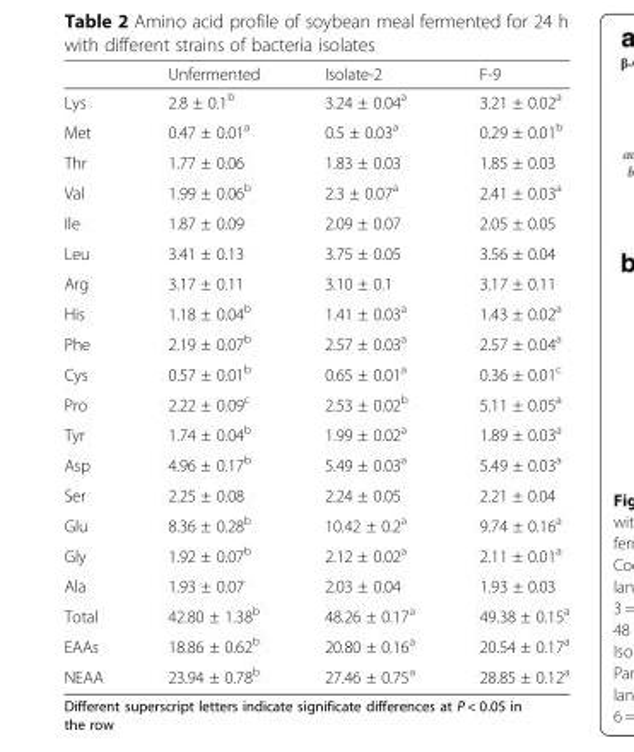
<table><thead><tr><td></td><td>Unfermented</td><td>Isolate-2</td><td>F-9</td></tr></thead><tbody><tr><td>Lys</td><td>2.8 ± 0.1<sup>b</sup></td><td>3.24 ± 0.04<sup>a</sup></td><td>3.21 ± 0.02<sup>a</sup></td></tr><tr><td>Met</td><td>0.47 ± 0.01<sup>a</sup></td><td>0.5 ± 0.03<sup>a</sup></td><td>0.29 ± 0.01<sup>b</sup></td></tr><tr><td>Thr</td><td>1.77 ± 0.06</td><td>1.83 ± 0.03</td><td>1.85 ± 0.03</td></tr><tr><td>Val</td><td>1.99 ± 0.06<sup>b</sup></td><td>2.3 ± 0.07<sup>a</sup></td><td>2.41 ± 0.03<sup>a</sup></td></tr><tr><td>Ile</td><td>1.87 ± 0.09</td><td>2.09 ± 0.07</td><td>2.05 ± 0.05</td></tr><tr><td>Leu</td><td>3.41 ± 0.13</td><td>3.75 ± 0.05</td><td>3.56 ± 0.04</td></tr><tr><td>Arg</td><td>3.17 ± 0.11</td><td>3.10 ± 0.1</td><td>3.17 ± 0.11</td></tr><tr><td>His</td><td>1.18 ± 0.04<sup>b</sup></td><td>1.41 ± 0.03<sup>a</sup></td><td>1.43 ± 0.02<sup>a</sup></td></tr><tr><td>Phe</td><td>2.19 ± 0.07<sup>b</sup></td><td>2.57 ± 0.03<sup>a</sup></td><td>2.57 ± 0.04<sup>a</sup></td></tr><tr><td>Cys</td><td>0.57 ± 0.01<sup>b</sup></td><td>0.65 ± 0.01<sup>a</sup></td><td>0.36 ± 0.01<sup>c</sup></td></tr><tr><td>Pro</td><td>2.22 ± 0.09<sup>c</sup></td><td>2.53 ± 0.02<sup>b</sup></td><td>5.11 ± 0.05<sup>a</sup></td></tr><tr><td>Tyr</td><td>1.74 ± 0.04<sup>b</sup></td><td>1.99 ± 0.02<sup>a</sup></td><td>1.89 ± 0.03<sup>a</sup></td></tr><tr><td>Asp</td><td>4.96 ± 0.17<sup>b</sup></td><td>5.49 ± 0.03<sup>a</sup></td><td>5.49 ± 0.03<sup>a</sup></td></tr><tr><td>Ser</td><td>2.25 ± 0.08</td><td>2.24 ± 0.05</td><td>2.21 ± 0.04</td></tr><tr><td>Glu</td><td>8.36 ± 0.28<sup>b</sup></td><td>10.42 ± 0.2<sup>a</sup></td><td>9.74 ± 0.16<sup>a</sup></td></tr><tr><td>Gly</td><td>1.92 ± 0.07<sup>b</sup></td><td>2.12 ± 0.02<sup>a</sup></td><td>2.11 ± 0.01<sup>a</sup></td></tr><tr><td>Ala</td><td>1.93 ± 0.07</td><td>2.03 ± 0.04</td><td>1.93 ± 0.03</td></tr><tr><td>Total</td><td>42.80 ± 1.38<sup>b</sup></td><td>48.26 ± 0.17<sup>a</sup></td><td>49.38 ± 0.15<sup>a</sup></td></tr><tr><td>EAAs</td><td>18.86 ± 0.62<sup>b</sup></td><td>20.80 ± 0.16<sup>a</sup></td><td>20.54 ± 0.17<sup>a</sup></td></tr><tr><td>NEAA</td><td>23.94 ± 0.78<sup>b</sup></td><td>27.46 ± 0.75<sup>a</sup></td><td>28.85 ± 0.12<sup>a</sup></td></tr></tbody></table>